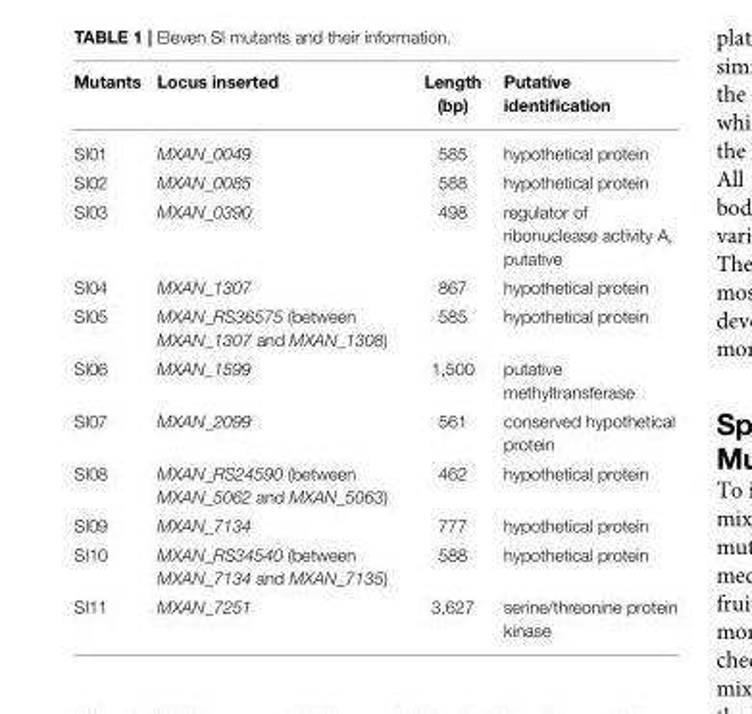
<table><thead><tr><td>Mutants</td><td>Locus inserted</td><td>Length (bp)</td><td>Putative identification</td></tr></thead><tbody><tr><td>SI01</td><td>MXAN_0049</td><td>585</td><td>hypothetical protein</td></tr><tr><td>SI02</td><td>MXAN_0085</td><td>588</td><td>hypothetical protein</td></tr><tr><td>SI03</td><td>MXAN_0390</td><td>498</td><td>regulator of ribonuclease activity A, putative</td></tr><tr><td>SI04</td><td>MXAN_1307</td><td>867</td><td>hypothetical protein</td></tr><tr><td>SI05</td><td>MXAN_RS36575 (between MXAN_1307 and MXAN_1308)</td><td>585</td><td>hypothetical protein</td></tr><tr><td>SI06</td><td>MXAN_1599</td><td>1,500</td><td>putative methyltransferase</td></tr><tr><td>SI07</td><td>MXAN_2099</td><td>561</td><td>conserved hypothetical protein</td></tr><tr><td>SI08</td><td>MXAN_RS24590 (between MXAN_5062 and MXAN_5063)</td><td>462</td><td>hypothetical protein</td></tr><tr><td>SI09</td><td>MXAN_7134</td><td>777</td><td>hypothetical protein</td></tr><tr><td>SI10</td><td>MXAN_RS34540 (between MXAN_7134 and MXAN_7135)</td><td>588</td><td>hypothetical protein</td></tr><tr><td>SI11</td><td>MXAN_7251</td><td>3,627</td><td>serine/threonine protein kinase</td></tr></tbody></table>